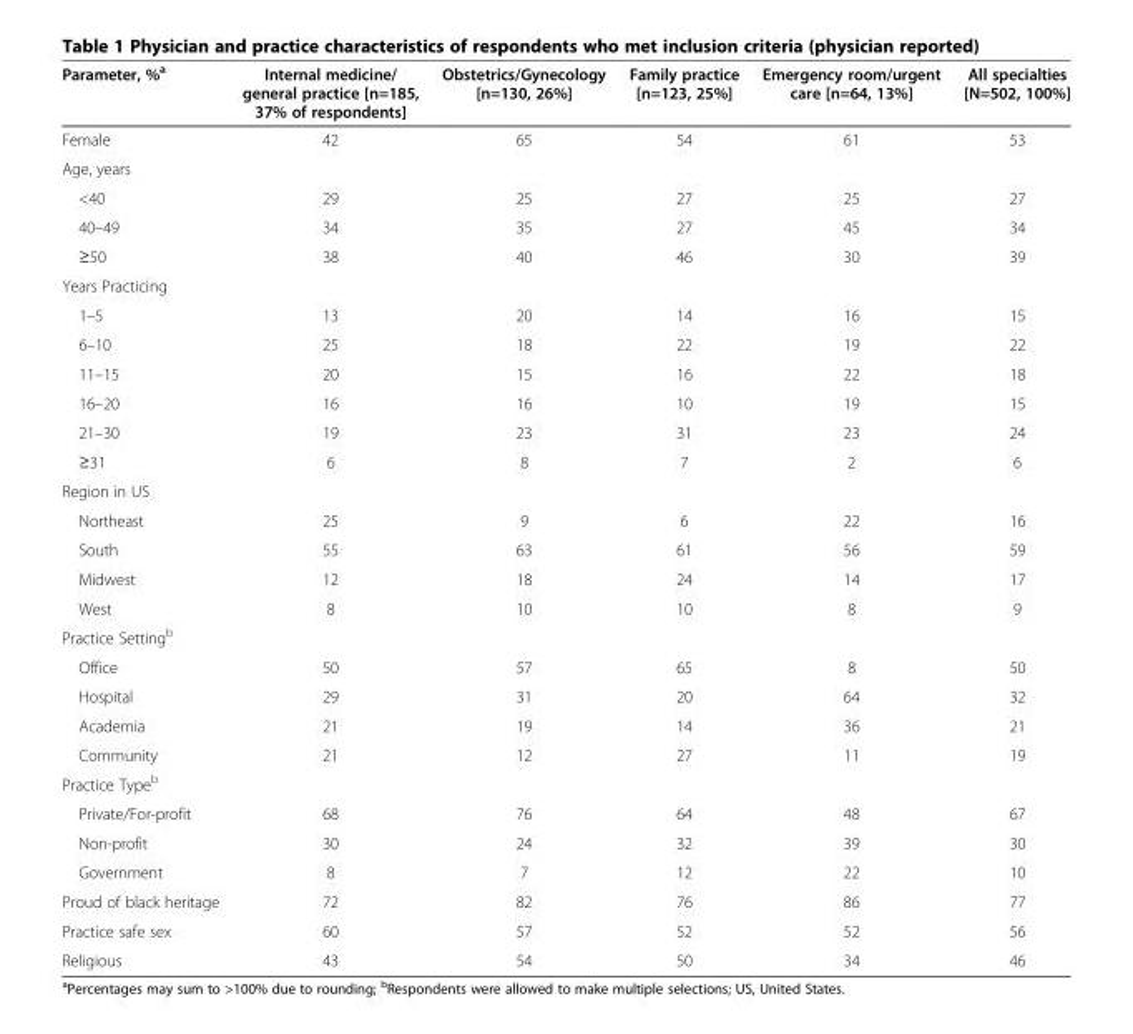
<table><thead><tr><td>Parameter, %<sup>a</sup></td><td>Internal medicine/ general practice [n=185, 37% of respondents]</td><td>Obstetrics/Gynecology [n=130, 26%]</td><td>Family practice [n=123, 25%]</td><td>Emergency room/urgent care [n=64, 13%]</td><td>All specialties [N=502, 100%]</td></tr></thead><tbody><tr><td>Female</td><td>42</td><td>65</td><td>54</td><td>61</td><td>53</td></tr><tr><td colspan="6">Age, years</td></tr><tr><td>&lt;40</td><td>29</td><td>25</td><td>27</td><td>25</td><td>27</td></tr><tr><td>40–49</td><td>34</td><td>35</td><td>27</td><td>45</td><td>34</td></tr><tr><td>≥50</td><td>38</td><td>40</td><td>46</td><td>30</td><td>39</td></tr><tr><td colspan="6">Years Practicing</td></tr><tr><td>1–5</td><td>13</td><td>20</td><td>14</td><td>16</td><td>15</td></tr><tr><td>6–10</td><td>25</td><td>18</td><td>22</td><td>19</td><td>22</td></tr><tr><td>11–15</td><td>20</td><td>15</td><td>16</td><td>22</td><td>18</td></tr><tr><td>16–20</td><td>16</td><td>16</td><td>10</td><td>19</td><td>15</td></tr><tr><td>21–30</td><td>19</td><td>23</td><td>31</td><td>23</td><td>24</td></tr><tr><td>≥31</td><td>6</td><td>8</td><td>7</td><td>2</td><td>6</td></tr><tr><td colspan="6">Region in US</td></tr><tr><td>Northeast</td><td>25</td><td>9</td><td>6</td><td>22</td><td>16</td></tr><tr><td>South</td><td>55</td><td>63</td><td>61</td><td>56</td><td>59</td></tr><tr><td>Midwest</td><td>12</td><td>18</td><td>24</td><td>14</td><td>17</td></tr><tr><td>West</td><td>8</td><td>10</td><td>10</td><td>8</td><td>9</td></tr><tr><td colspan="6">Practice Setting<sup>b</sup></td></tr><tr><td>Office</td><td>50</td><td>57</td><td>65</td><td>8</td><td>50</td></tr><tr><td>Hospital</td><td>29</td><td>31</td><td>20</td><td>64</td><td>32</td></tr><tr><td>Academia</td><td>21</td><td>19</td><td>14</td><td>36</td><td>21</td></tr><tr><td>Community</td><td>21</td><td>12</td><td>27</td><td>11</td><td>19</td></tr><tr><td colspan="6">Practice Type<sup>b</sup></td></tr><tr><td>Private/For-profit</td><td>68</td><td>76</td><td>64</td><td>48</td><td>67</td></tr><tr><td>Non-profit</td><td>30</td><td>24</td><td>32</td><td>39</td><td>30</td></tr><tr><td>Government</td><td>8</td><td>7</td><td>12</td><td>22</td><td>10</td></tr><tr><td>Proud of black heritage</td><td>72</td><td>82</td><td>76</td><td>86</td><td>77</td></tr><tr><td>Practice safe sex</td><td>60</td><td>57</td><td>52</td><td>52</td><td>56</td></tr><tr><td>Religious</td><td>43</td><td>54</td><td>50</td><td>34</td><td>46</td></tr></tbody></table>